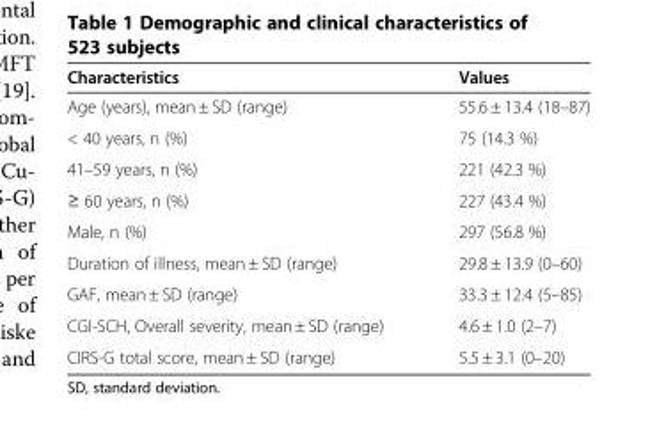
<table><thead><tr><td>Characteristics</td><td>Values</td></tr></thead><tbody><tr><td>Age (years), mean ± SD (range)</td><td>55.6 ± 13.4 (18–87)</td></tr><tr><td>&lt; 40 years, n (%)</td><td>75 (14.3 %)</td></tr><tr><td>41–59 years, n (%)</td><td>221 (42.3 %)</td></tr><tr><td>≥ 60 years, n (%)</td><td>227 (43.4 %)</td></tr><tr><td>Male, n (%)</td><td>297 (56.8 %)</td></tr><tr><td>Duration of illness, mean ± SD (range)</td><td>29.8 ± 13.9 (0–60)</td></tr><tr><td>GAF, mean ± SD (range)</td><td>33.3 ± 12.4 (5–85)</td></tr><tr><td>CGI-SCH, Overall severity, mean ± SD (range)</td><td>4.6 ± 1.0 (2–7)</td></tr><tr><td>CIRS-G total score, mean ± SD (range)</td><td>5.5 ± 3.1 (0–20)</td></tr></tbody></table>